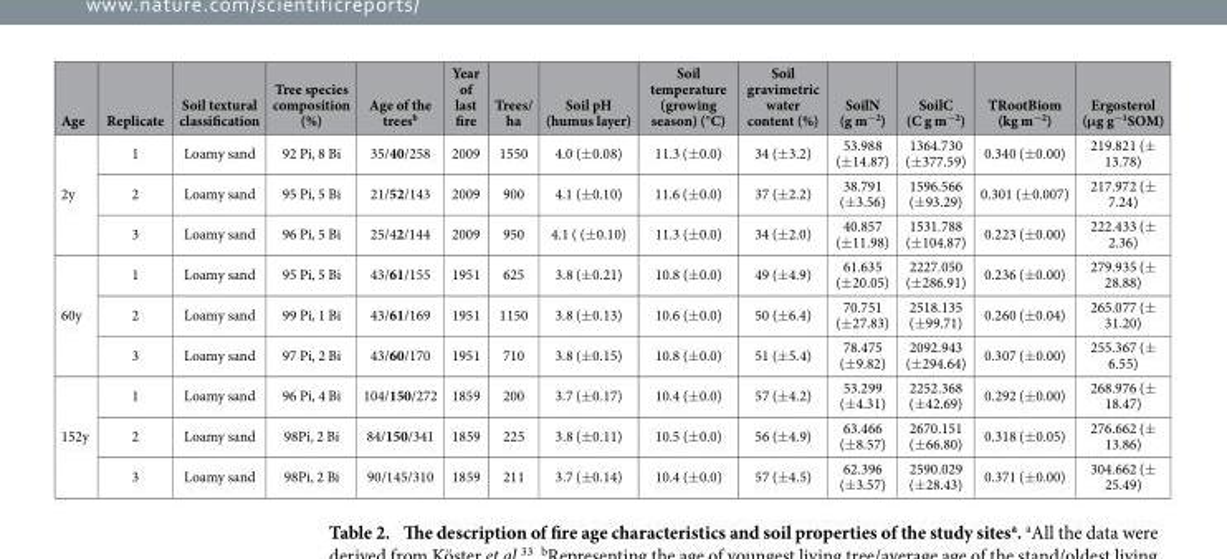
<table><thead><tr><td>Age</td><td>Replicate</td><td>Soil textural classification</td><td>Tree species composition (%)</td><td>Age of the trees<sup>b</sup></td><td>Year of last fire</td><td>Trees/ ha</td><td>Soil pH (humus layer)</td><td>Soil temperature (growing season) (°C)</td><td>Soil gravimetric water content (%)</td><td>SoilN (g m<sup>−2</sup>)</td><td>SoilC (C g m<sup>−2</sup>)</td><td>TRootBiom (kg m<sup>−2</sup>)</td><td>Ergosterol (μg g<sup>−1</sup>SOM)</td></tr></thead><tbody><tr><td rowspan="3">2y</td><td>1</td><td>Loamy sand</td><td>92 Pi, 8 Bi</td><td>35/40/258</td><td>2009</td><td>1550</td><td>4.0 (± 0.08)</td><td>11.3 (± 0.0)</td><td>34 (± 3.2)</td><td>53.988 (± 14.87)</td><td>1364.730 (± 377.59)</td><td>0.340 (± 0.00)</td><td>219.821 (± 13.78)</td></tr><tr><td>2</td><td>Loamy sand</td><td>95 Pi, 5 Bi</td><td>21/52/143</td><td>2009</td><td>900</td><td>4.1 (± 0.10)</td><td>11.6 (± 0.0)</td><td>37 (± 2.2)</td><td>38.791 (± 3.56)</td><td>1596.566 (± 93.29)</td><td>0.301 (± 0.007)</td><td>217.972 (± 7.24)</td></tr><tr><td>3</td><td>Loamy sand</td><td>96 Pi, 5 Bi</td><td>25/42/144</td><td>2009</td><td>950</td><td>4.1 ( (± 0.10)</td><td>11.3 (± 0.0)</td><td>34 (± 2.0)</td><td>40.857 (± 11.98)</td><td>1531.788 (± 104.87)</td><td>0.223 (± 0.00)</td><td>222.433 (± 2.36)</td></tr><tr><td rowspan="3">60y</td><td>1</td><td>Loamy sand</td><td>95 Pi, 5 Bi</td><td>43/61/155</td><td>1951</td><td>625</td><td>3.8 (± 0.21)</td><td>10.8 (± 0.0)</td><td>49 (± 4.9)</td><td>61.635 (± 20.05)</td><td>2227.050 (± 286.91)</td><td>0.236 (± 0.00)</td><td>279.935 (± 28.88)</td></tr><tr><td>2</td><td>Loamy sand</td><td>99 Pi, 1 Bi</td><td>43/61/169</td><td>1951</td><td>1150</td><td>3.8 (± 0.13)</td><td>10.6 (± 0.0)</td><td>50 (± 6.4)</td><td>70.751 (± 27.83)</td><td>2518.135 (± 99.71)</td><td>0.260 (± 0.04)</td><td>265.077 (± 31.20)</td></tr><tr><td>3</td><td>Loamy sand</td><td>97 Pi, 2 Bi</td><td>43/60/170</td><td>1951</td><td>710</td><td>3.8 (± 0.15)</td><td>10.8 (± 0.0)</td><td>51 (± 5.4)</td><td>78.475 (± 9.82)</td><td>2092.943 (± 294.64)</td><td>0.307 (± 0.00)</td><td>255.367 (± 6.55)</td></tr><tr><td rowspan="3">152y</td><td>1</td><td>Loamy sand</td><td>96 Pi, 4 Bi</td><td>104/150/272</td><td>1859</td><td>200</td><td>3.7 (± 0.17)</td><td>10.4 (± 0.0)</td><td>57 (± 4.2)</td><td>53.299 (± 4.31)</td><td>2252.368 (± 42.69)</td><td>0.292 (± 0.00)</td><td>268.976 (± 18.47)</td></tr><tr><td>2</td><td>Loamy sand</td><td>98Pi, 2 Bi</td><td>84/150/341</td><td>1859</td><td>225</td><td>3.8 (± 0.11)</td><td>10.5 (± 0.0)</td><td>56 (± 4.9)</td><td>63.466 (± 8.57)</td><td>2670.151 (± 66.80)</td><td>0.318 (± 0.05)</td><td>276.662 (± 13.86)</td></tr><tr><td>3</td><td>Loamy sand</td><td>98Pi, 2 Bi</td><td>90/145/310</td><td>1859</td><td>211</td><td>3.7 (± 0.14)</td><td>10.4 (± 0.0)</td><td>57 (± 4.5)</td><td>62.396 (± 3.57)</td><td>2590.029 (± 28.43)</td><td>0.371 (± 0.00)</td><td>304.662 (± 25.49)</td></tr></tbody></table>